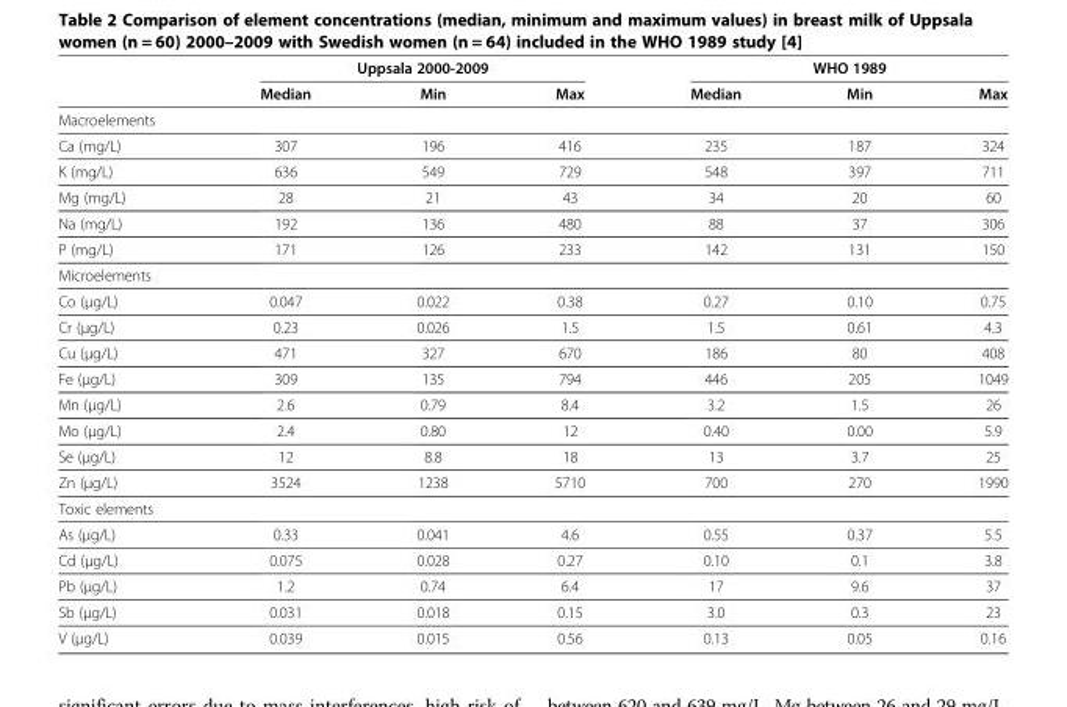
<table><thead><tr><td rowspan="2"></td><td colspan="3">Uppsala 2000-2009</td><td colspan="3">WHO 1989</td></tr><tr><td>Median</td><td>Min</td><td>Max</td><td>Median</td><td>Min</td><td>Max</td></tr></thead><tbody><tr><td colspan="7">Macroelements</td></tr><tr><td>Ca (mg/L)</td><td>307</td><td>196</td><td>416</td><td>235</td><td>187</td><td>324</td></tr><tr><td>K (mg/L)</td><td>636</td><td>549</td><td>729</td><td>548</td><td>397</td><td>711</td></tr><tr><td>Mg (mg/L)</td><td>28</td><td>21</td><td>43</td><td>34</td><td>20</td><td>60</td></tr><tr><td>Na (mg/L)</td><td>192</td><td>136</td><td>480</td><td>88</td><td>37</td><td>306</td></tr><tr><td>P (mg/L)</td><td>171</td><td>126</td><td>233</td><td>142</td><td>131</td><td>150</td></tr><tr><td colspan="7">Microelements</td></tr><tr><td>Co (μg/L)</td><td>0.047</td><td>0.022</td><td>0.38</td><td>0.27</td><td>0.10</td><td>0.75</td></tr><tr><td>Cr (μg/L)</td><td>0.23</td><td>0.026</td><td>1.5</td><td>1.5</td><td>0.61</td><td>4.3</td></tr><tr><td>Cu (μg/L)</td><td>471</td><td>327</td><td>670</td><td>186</td><td>80</td><td>408</td></tr><tr><td>Fe (μg/L)</td><td>309</td><td>135</td><td>794</td><td>446</td><td>205</td><td>1049</td></tr><tr><td>Mn (μg/L)</td><td>2.6</td><td>0.79</td><td>8.4</td><td>3.2</td><td>1.5</td><td>26</td></tr><tr><td>Mo (μg/L)</td><td>2.4</td><td>0.80</td><td>12</td><td>0.40</td><td>0.00</td><td>5.9</td></tr><tr><td>Se (μg/L)</td><td>12</td><td>8.8</td><td>18</td><td>13</td><td>3.7</td><td>25</td></tr><tr><td>Zn (μg/L)</td><td>3524</td><td>1238</td><td>5710</td><td>700</td><td>270</td><td>1990</td></tr><tr><td colspan="7">Toxic elements</td></tr><tr><td>As (μg/L)</td><td>0.33</td><td>0.041</td><td>4.6</td><td>0.55</td><td>0.37</td><td>5.5</td></tr><tr><td>Cd (μg/L)</td><td>0.075</td><td>0.028</td><td>0.27</td><td>0.10</td><td>0.1</td><td>3.8</td></tr><tr><td>Pb (μg/L)</td><td>1.2</td><td>0.74</td><td>6.4</td><td>17</td><td>9.6</td><td>37</td></tr><tr><td>Sb (μg/L)</td><td>0.031</td><td>0.018</td><td>0.15</td><td>3.0</td><td>0.3</td><td>23</td></tr><tr><td>V (μg/L)</td><td>0.039</td><td>0.015</td><td>0.56</td><td>0.13</td><td>0.05</td><td>0.16</td></tr></tbody></table>